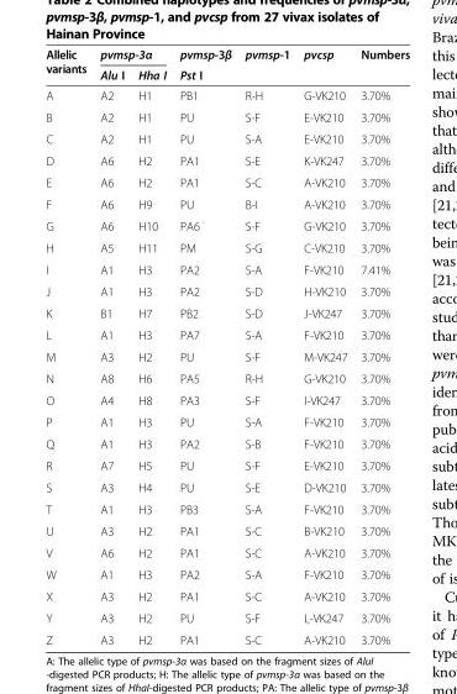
<table><thead><tr><td rowspan="2">Allelic variants</td><td colspan="2">pvmsp-3α</td><td rowspan="2">pvmsp-3β Pst I</td><td rowspan="2">pvmsp-1</td><td rowspan="2">pvcsp</td><td rowspan="2">Numbers</td></tr><tr><td>Alu I</td><td>Hha I</td></tr></thead><tbody><tr><td>A</td><td>A2</td><td>H1</td><td>PB1</td><td>R-H</td><td>G-VK210</td><td>3.70%</td></tr><tr><td>B</td><td>A2</td><td>H1</td><td>PU</td><td>S-F</td><td>E-VK210</td><td>3.70%</td></tr><tr><td>C</td><td>A2</td><td>H1</td><td>PU</td><td>S-A</td><td>E-VK210</td><td>3.70%</td></tr><tr><td>D</td><td>A6</td><td>H2</td><td>PA1</td><td>S-E</td><td>K-VK247</td><td>3.70%</td></tr><tr><td>E</td><td>A6</td><td>H2</td><td>PA1</td><td>S-C</td><td>A-VK210</td><td>3.70%</td></tr><tr><td>F</td><td>A6</td><td>H9</td><td>PU</td><td>B-I</td><td>A-VK210</td><td>3.70%</td></tr><tr><td>G</td><td>A6</td><td>H10</td><td>PA6</td><td>S-F</td><td>G-VK210</td><td>3.70%</td></tr><tr><td>H</td><td>A5</td><td>H11</td><td>PM</td><td>S-G</td><td>C-VK210</td><td>3.70%</td></tr><tr><td>I</td><td>A1</td><td>H3</td><td>PA2</td><td>S-A</td><td>F-VK210</td><td>7.41%</td></tr><tr><td>J</td><td>A1</td><td>H3</td><td>PA2</td><td>S-D</td><td>H-VK210</td><td>3.70%</td></tr><tr><td>K</td><td>B1</td><td>H7</td><td>PB2</td><td>S-D</td><td>J-VK247</td><td>3.70%</td></tr><tr><td>L</td><td>A1</td><td>H3</td><td>PA7</td><td>S-A</td><td>F-VK210</td><td>3.70%</td></tr><tr><td>M</td><td>A3</td><td>H2</td><td>PU</td><td>S-F</td><td>M-VK247</td><td>3.70%</td></tr><tr><td>N</td><td>A8</td><td>H6</td><td>PA5</td><td>R-H</td><td>G-VK210</td><td>3.70%</td></tr><tr><td>O</td><td>A4</td><td>H8</td><td>PA3</td><td>S-F</td><td>I-VK247</td><td>3.70%</td></tr><tr><td>P</td><td>A1</td><td>H3</td><td>PU</td><td>S-A</td><td>F-VK210</td><td>3.70%</td></tr><tr><td>Q</td><td>A1</td><td>H3</td><td>PA2</td><td>S-B</td><td>F-VK210</td><td>3.70%</td></tr><tr><td>R</td><td>A7</td><td>H5</td><td>PU</td><td>S-F</td><td>E-VK210</td><td>3.70%</td></tr><tr><td>S</td><td>A3</td><td>H4</td><td>PU</td><td>S-E</td><td>D-VK210</td><td>3.70%</td></tr><tr><td>T</td><td>A1</td><td>H3</td><td>PB3</td><td>S-A</td><td>F-VK210</td><td>3.70%</td></tr><tr><td>U</td><td>A3</td><td>H2</td><td>PA1</td><td>S-C</td><td>B-VK210</td><td>3.70%</td></tr><tr><td>V</td><td>A6</td><td>H2</td><td>PA1</td><td>S-C</td><td>A-VK210</td><td>3.70%</td></tr><tr><td>W</td><td>A1</td><td>H3</td><td>PA2</td><td>S-A</td><td>F-VK210</td><td>3.70%</td></tr><tr><td>X</td><td>A3</td><td>H2</td><td>PA1</td><td>S-C</td><td>A-VK210</td><td>3.70%</td></tr><tr><td>Y</td><td>A3</td><td>H2</td><td>PU</td><td>S-F</td><td>L-VK247</td><td>3.70%</td></tr><tr><td>Z</td><td>A3</td><td>H2</td><td>PA1</td><td>S-C</td><td>A-VK210</td><td>3.70%</td></tr></tbody></table>